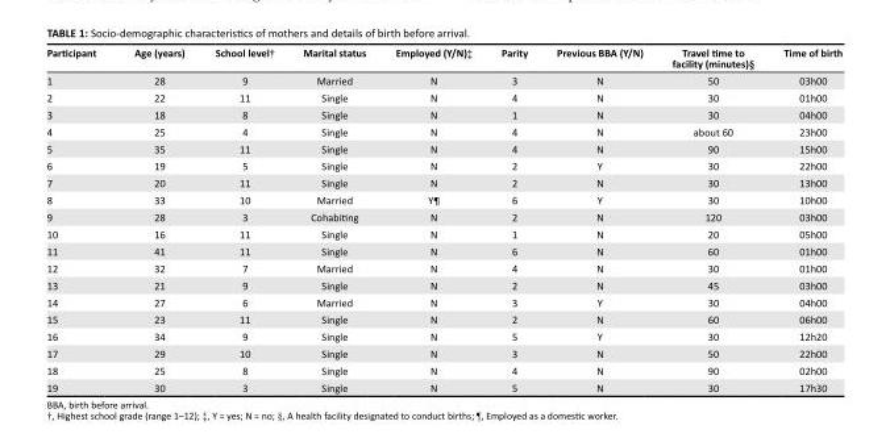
<table><thead><tr><td>Participant</td><td>Age (years)</td><td>School level<sup>†</sup></td><td>Marital status</td><td>Employed (Y/N)<sup>‡</sup></td><td>Parity</td><td>Previous BBA (Y/N)</td><td>Travel time to facility (minutes)<sup>§</sup></td><td>Time of birth</td></tr></thead><tbody><tr><td>1</td><td>28</td><td>9</td><td>Married</td><td>N</td><td>3</td><td>N</td><td>50</td><td>03h00</td></tr><tr><td>2</td><td>22</td><td>11</td><td>Single</td><td>N</td><td>4</td><td>N</td><td>30</td><td>01h00</td></tr><tr><td>3</td><td>18</td><td>8</td><td>Single</td><td>N</td><td>1</td><td>N</td><td>30</td><td>04h00</td></tr><tr><td>4</td><td>25</td><td>4</td><td>Single</td><td>N</td><td>4</td><td>N</td><td>about 60</td><td>23h00</td></tr><tr><td>5</td><td>35</td><td>11</td><td>Single</td><td>N</td><td>4</td><td>N</td><td>90</td><td>15h00</td></tr><tr><td>6</td><td>19</td><td>5</td><td>Single</td><td>N</td><td>2</td><td>Y</td><td>30</td><td>22h00</td></tr><tr><td>7</td><td>20</td><td>11</td><td>Single</td><td>N</td><td>2</td><td>N</td><td>30</td><td>13h00</td></tr><tr><td>8</td><td>33</td><td>10</td><td>Married</td><td>Y<sup>¶</sup></td><td>6</td><td>Y</td><td>30</td><td>10h00</td></tr><tr><td>9</td><td>28</td><td>3</td><td>Cohabiting</td><td>N</td><td>2</td><td>N</td><td>120</td><td>03h00</td></tr><tr><td>10</td><td>16</td><td>11</td><td>Single</td><td>N</td><td>1</td><td>N</td><td>20</td><td>05h00</td></tr><tr><td>11</td><td>41</td><td>11</td><td>Single</td><td>N</td><td>6</td><td>N</td><td>60</td><td>01h00</td></tr><tr><td>12</td><td>32</td><td>7</td><td>Married</td><td>N</td><td>4</td><td>N</td><td>30</td><td>01h00</td></tr><tr><td>13</td><td>21</td><td>9</td><td>Single</td><td>N</td><td>2</td><td>N</td><td>45</td><td>03h00</td></tr><tr><td>14</td><td>27</td><td>6</td><td>Married</td><td>N</td><td>3</td><td>Y</td><td>30</td><td>04h00</td></tr><tr><td>15</td><td>23</td><td>11</td><td>Single</td><td>N</td><td>2</td><td>N</td><td>60</td><td>06h00</td></tr><tr><td>16</td><td>34</td><td>9</td><td>Single</td><td>N</td><td>5</td><td>Y</td><td>30</td><td>12h20</td></tr><tr><td>17</td><td>29</td><td>10</td><td>Single</td><td>N</td><td>3</td><td>N</td><td>50</td><td>22h00</td></tr><tr><td>18</td><td>25</td><td>8</td><td>Single</td><td>N</td><td>4</td><td>N</td><td>90</td><td>02h00</td></tr><tr><td>19</td><td>30</td><td>3</td><td>Single</td><td>N</td><td>5</td><td>N</td><td>30</td><td>17h30</td></tr></tbody></table>